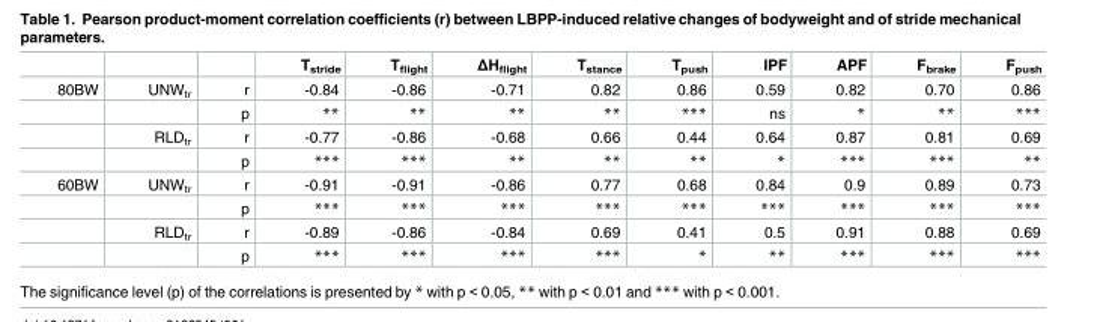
<table><thead><tr><td></td><td></td><td></td><td>T<sub>stride</sub></td><td>T<sub>flight</sub></td><td>ΔH<sub>flight</sub></td><td>T<sub>stance</sub></td><td>T<sub>push</sub></td><td>IPF</td><td>APF</td><td>F<sub>brake</sub></td><td>F<sub>push</sub></td></tr></thead><tbody><tr><td rowspan="4">80BW</td><td>UNW<sub>tr</sub></td><td>r</td><td>-0.84</td><td>-0.86</td><td>-0.71</td><td>0.82</td><td>0.86</td><td>0.59</td><td>0.82</td><td>0.70</td><td>0.86</td></tr><tr><td></td><td>p</td><td>**</td><td>**</td><td>**</td><td>**</td><td>***</td><td>ns</td><td>*</td><td>**</td><td>***</td></tr><tr><td>RLD<sub>tr</sub></td><td>r</td><td>-0.77</td><td>-0.86</td><td>-0.68</td><td>0.66</td><td>0.44</td><td>0.64</td><td>0.87</td><td>0.81</td><td>0.69</td></tr><tr><td></td><td>p</td><td>***</td><td>***</td><td>**</td><td>**</td><td>**</td><td>*</td><td>***</td><td>***</td><td>**</td></tr><tr><td rowspan="4">60BW</td><td>UNW<sub>tr</sub></td><td>r</td><td>-0.91</td><td>-0.91</td><td>-0.86</td><td>0.77</td><td>0.68</td><td>0.84</td><td>0.9</td><td>0.89</td><td>0.73</td></tr><tr><td></td><td>p</td><td>***</td><td>***</td><td>***</td><td>***</td><td>***</td><td>***</td><td>***</td><td>***</td><td>***</td></tr><tr><td>RLD<sub>tr</sub></td><td>r</td><td>-0.89</td><td>-0.86</td><td>-0.84</td><td>0.69</td><td>0.41</td><td>0.5</td><td>0.91</td><td>0.88</td><td>0.69</td></tr><tr><td></td><td>p</td><td>***</td><td>***</td><td>***</td><td>***</td><td>*</td><td>**</td><td>***</td><td>***</td><td>***</td></tr></tbody></table>